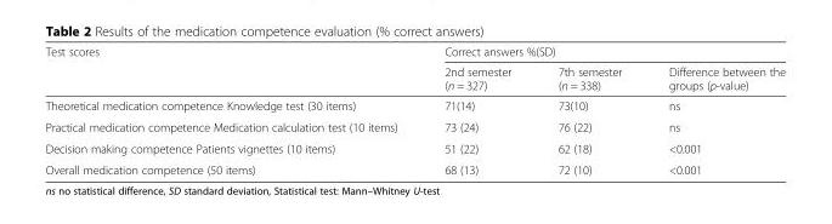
<table><thead><tr><td rowspan="2">Test scores</td><td colspan="3">Correct answers %(SD)</td></tr><tr><td>2nd semester (n = 327)</td><td>7th semester (n = 338)</td><td>Difference between the groups (p-value)</td></tr></thead><tbody><tr><td>Theoretical medication competence Knowledge test (30 items)</td><td>71(14)</td><td>73(10)</td><td>ns</td></tr><tr><td>Practical medication competence Medication calculation test (10 items)</td><td>73 (24)</td><td>76 (22)</td><td>ns</td></tr><tr><td>Decision making competence Patients vignettes (10 items)</td><td>51 (22)</td><td>62 (18)</td><td>&lt;0.001</td></tr><tr><td>Overall medication competence (50 items)</td><td>68 (13)</td><td>72 (10)</td><td>&lt;0.001</td></tr></tbody></table>